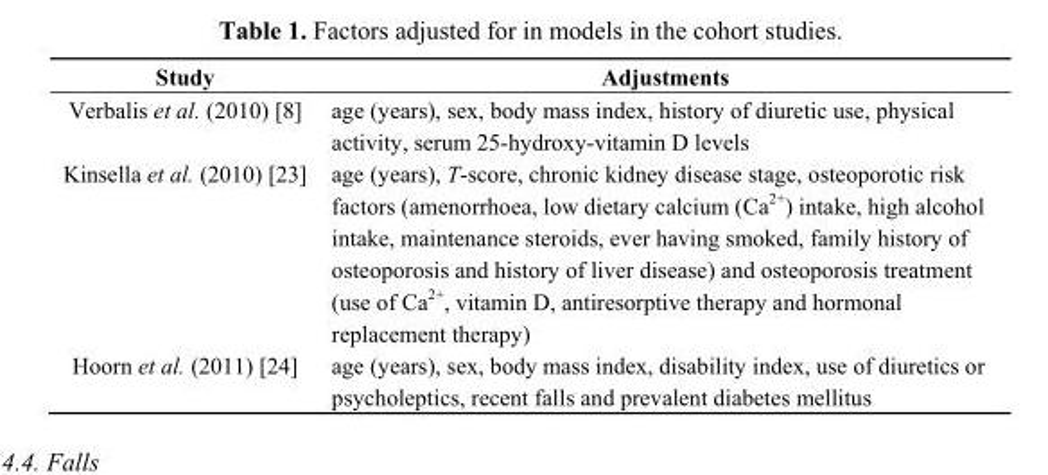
<table><thead><tr><td>Study</td><td>Adjustments</td></tr></thead><tbody><tr><td>Verbalis et al. (2010) [8]</td><td>age (years), sex, body mass index, history of diuretic use, physical activity, serum 25-hydroxy-vitamin D levels</td></tr><tr><td>Kinsella et al. (2010) [23]</td><td>age (years), T-score, chronic kidney disease stage, osteoporotic risk factors (amenorrhoea, low dietary calcium (Ca<sup>2+</sup>) intake, high alcohol intake, maintenance steroids, ever having smoked, family history of osteoporosis and history of liver disease) and osteoporosis treatment (use of Ca<sup>2+</sup>, vitamin D, antiresorptive therapy and hormonal replacement therapy)</td></tr><tr><td>Hoorn et al. (2011) [24]</td><td>age (years), sex, body mass index, disability index, use of diuretics or psycholeptics, recent falls and prevalent diabetes mellitus</td></tr></tbody></table>